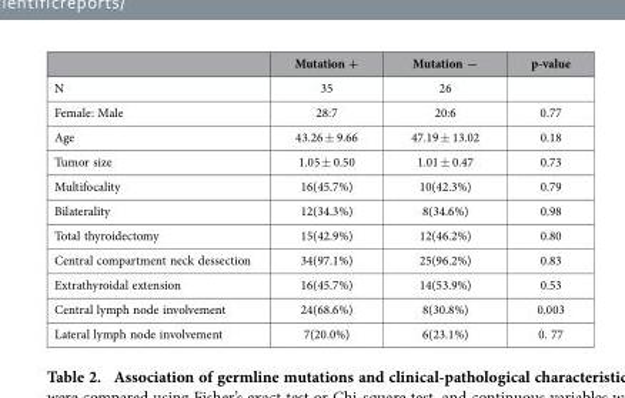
<table><thead><tr><td></td><td>Mutation +</td><td>Mutation −</td><td>p-value</td></tr></thead><tbody><tr><td>N</td><td>35</td><td>26</td><td></td></tr><tr><td>Female: Male</td><td>28:7</td><td>20:6</td><td>0.77</td></tr><tr><td>Age</td><td>43.26 ± 9.66</td><td>47.19 ± 13.02</td><td>0.18</td></tr><tr><td>Tumor size</td><td>1.05 ± 0.50</td><td>1.01 ± 0.47</td><td>0.73</td></tr><tr><td>Multifocality</td><td>16(45.7%)</td><td>10(42.3%)</td><td>0.79</td></tr><tr><td>Bilaterality</td><td>12(34.3%)</td><td>8(34.6%)</td><td>0.98</td></tr><tr><td>Total thyroidectomy</td><td>15(42.9%)</td><td>12(46.2%)</td><td>0.80</td></tr><tr><td>Central compartment neck dessection</td><td>34(97.1%)</td><td>25(96.2%)</td><td>0.83</td></tr><tr><td>Extrathyroidal extension</td><td>16(45.7%)</td><td>14(53.9%)</td><td>0.53</td></tr><tr><td>Central lymph node involvement</td><td>24(68.6%)</td><td>8(30.8%)</td><td>0.003</td></tr><tr><td>Lateral lymph node involvement</td><td>7(20.0%)</td><td>6(23.1%)</td><td>0. 77</td></tr></tbody></table>